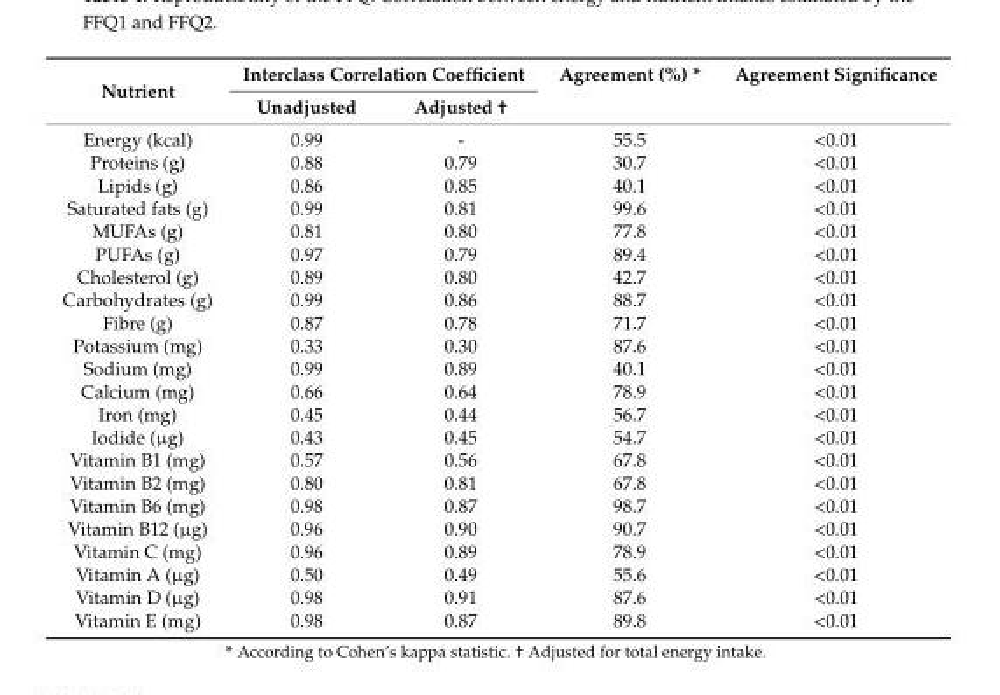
<table><thead><tr><td rowspan="2">Nutrient</td><td colspan="2">Interclass Correlation Coefficient</td><td rowspan="2">Agreement (%) *</td><td rowspan="2">Agreement Significance</td></tr><tr><td>Unadjusted</td><td>Adjusted †</td></tr></thead><tbody><tr><td>Energy (kcal)</td><td>0.99</td><td>-</td><td>55.5</td><td>&lt;0.01</td></tr><tr><td>Proteins (g)</td><td>0.88</td><td>0.79</td><td>30.7</td><td>&lt;0.01</td></tr><tr><td>Lipids (g)</td><td>0.86</td><td>0.85</td><td>40.1</td><td>&lt;0.01</td></tr><tr><td>Saturated fats (g)</td><td>0.99</td><td>0.81</td><td>99.6</td><td>&lt;0.01</td></tr><tr><td>MUFAs (g)</td><td>0.81</td><td>0.80</td><td>77.8</td><td>&lt;0.01</td></tr><tr><td>PUFAs (g)</td><td>0.97</td><td>0.79</td><td>89.4</td><td>&lt;0.01</td></tr><tr><td>Cholesterol (g)</td><td>0.89</td><td>0.80</td><td>42.7</td><td>&lt;0.01</td></tr><tr><td>Carbohydrates (g)</td><td>0.99</td><td>0.86</td><td>88.7</td><td>&lt;0.01</td></tr><tr><td>Fibre (g)</td><td>0.87</td><td>0.78</td><td>71.7</td><td>&lt;0.01</td></tr><tr><td>Potassium (mg)</td><td>0.33</td><td>0.30</td><td>87.6</td><td>&lt;0.01</td></tr><tr><td>Sodium (mg)</td><td>0.99</td><td>0.89</td><td>40.1</td><td>&lt;0.01</td></tr><tr><td>Calcium (mg)</td><td>0.66</td><td>0.64</td><td>78.9</td><td>&lt;0.01</td></tr><tr><td>Iron (mg)</td><td>0.45</td><td>0.44</td><td>56.7</td><td>&lt;0.01</td></tr><tr><td>Iodide (µg)</td><td>0.43</td><td>0.45</td><td>54.7</td><td>&lt;0.01</td></tr><tr><td>Vitamin B1 (mg)</td><td>0.57</td><td>0.56</td><td>67.8</td><td>&lt;0.01</td></tr><tr><td>Vitamin B2 (mg)</td><td>0.80</td><td>0.81</td><td>67.8</td><td>&lt;0.01</td></tr><tr><td>Vitamin B6 (mg)</td><td>0.98</td><td>0.87</td><td>98.7</td><td>&lt;0.01</td></tr><tr><td>Vitamin B12 (µg)</td><td>0.96</td><td>0.90</td><td>90.7</td><td>&lt;0.01</td></tr><tr><td>Vitamin C (mg)</td><td>0.96</td><td>0.89</td><td>78.9</td><td>&lt;0.01</td></tr><tr><td>Vitamin A (µg)</td><td>0.50</td><td>0.49</td><td>55.6</td><td>&lt;0.01</td></tr><tr><td>Vitamin D (µg)</td><td>0.98</td><td>0.91</td><td>87.6</td><td>&lt;0.01</td></tr><tr><td>Vitamin E (mg)</td><td>0.98</td><td>0.87</td><td>89.8</td><td>&lt;0.01</td></tr></tbody></table>